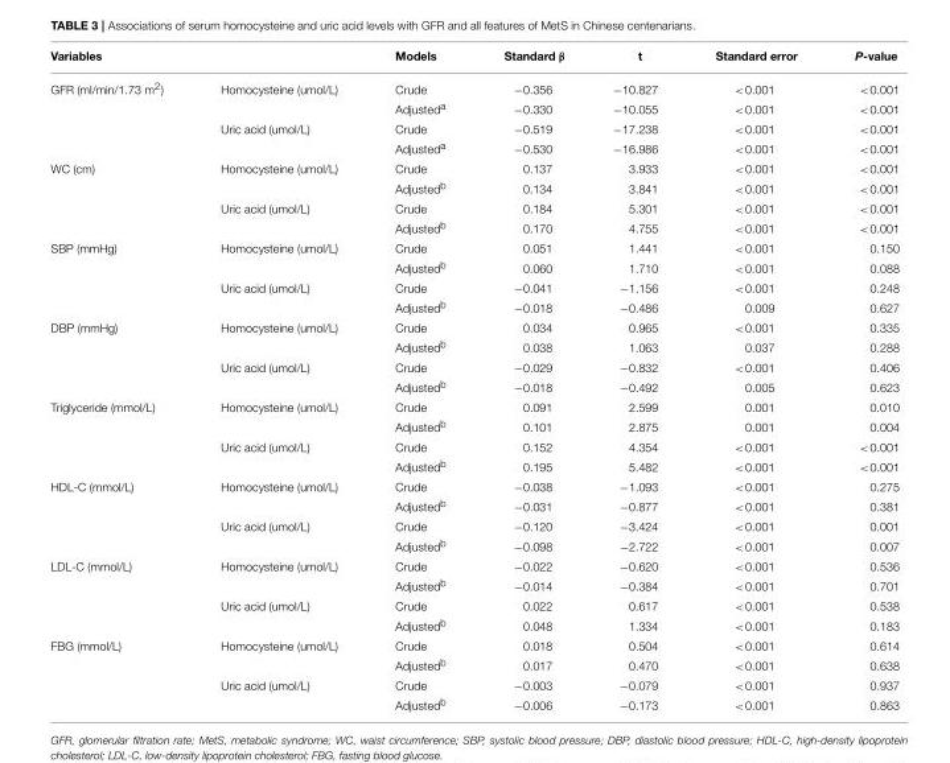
<table><thead><tr><td>Variables</td><td></td><td>Models</td><td>Standard β</td><td>t</td><td>Standard error</td><td>P-value</td></tr></thead><tbody><tr><td rowspan="4">GFR (ml/min/1.73 m<sup>2</sup>)</td><td>Homocysteine (umol/L)</td><td>Crude</td><td>−0.356</td><td>−10.827</td><td>&lt;0.001</td><td>&lt;0.001</td></tr><tr><td></td><td>Adjusted<sup>a</sup></td><td>−0.330</td><td>−10.055</td><td>&lt;0.001</td><td>&lt;0.001</td></tr><tr><td>Uric acid (umol/L)</td><td>Crude</td><td>−0.519</td><td>−17.238</td><td>&lt;0.001</td><td>&lt;0.001</td></tr><tr><td></td><td>Adjusted<sup>a</sup></td><td>−0.530</td><td>−16.986</td><td>&lt;0.001</td><td>&lt;0.001</td></tr><tr><td rowspan="4">WC (cm)</td><td>Homocysteine (umol/L)</td><td>Crude</td><td>0.137</td><td>3.933</td><td>&lt;0.001</td><td>&lt;0.001</td></tr><tr><td></td><td>Adjusted<sup>b</sup></td><td>0.134</td><td>3.841</td><td>&lt;0.001</td><td>&lt;0.001</td></tr><tr><td>Uric acid (umol/L)</td><td>Crude</td><td>0.184</td><td>5.301</td><td>&lt;0.001</td><td>&lt;0.001</td></tr><tr><td></td><td>Adjusted<sup>b</sup></td><td>0.170</td><td>4.755</td><td>&lt;0.001</td><td>&lt;0.001</td></tr><tr><td rowspan="4">SBP (mmHg)</td><td>Homocysteine (umol/L)</td><td>Crude</td><td>0.051</td><td>1.441</td><td>&lt;0.001</td><td>0.150</td></tr><tr><td></td><td>Adjusted<sup>b</sup></td><td>0.060</td><td>1.710</td><td>&lt;0.001</td><td>0.088</td></tr><tr><td>Uric acid (umol/L)</td><td>Crude</td><td>−0.041</td><td>−1.156</td><td>&lt;0.001</td><td>0.248</td></tr><tr><td></td><td>Adjusted<sup>b</sup></td><td>−0.018</td><td>−0.486</td><td>0.009</td><td>0.627</td></tr><tr><td rowspan="4">DBP (mmHg)</td><td>Homocysteine (umol/L)</td><td>Crude</td><td>0.034</td><td>0.965</td><td>&lt;0.001</td><td>0.335</td></tr><tr><td></td><td>Adjusted<sup>b</sup></td><td>0.038</td><td>1.063</td><td>0.037</td><td>0.288</td></tr><tr><td>Uric acid (umol/L)</td><td>Crude</td><td>−0.029</td><td>−0.832</td><td>&lt;0.001</td><td>0.406</td></tr><tr><td></td><td>Adjusted<sup>b</sup></td><td>−0.018</td><td>−0.492</td><td>0.005</td><td>0.623</td></tr><tr><td rowspan="4">Triglyceride (mmol/L)</td><td>Homocysteine (umol/L)</td><td>Crude</td><td>0.091</td><td>2.599</td><td>0.001</td><td>0.010</td></tr><tr><td></td><td>Adjusted<sup>b</sup></td><td>0.101</td><td>2.875</td><td>0.001</td><td>0.004</td></tr><tr><td>Uric acid (umol/L)</td><td>Crude</td><td>0.152</td><td>4.354</td><td>&lt;0.001</td><td>&lt;0.001</td></tr><tr><td></td><td>Adjusted<sup>b</sup></td><td>0.195</td><td>5.482</td><td>&lt;0.001</td><td>&lt;0.001</td></tr><tr><td rowspan="4">HDL-C (mmol/L)</td><td>Homocysteine (umol/L)</td><td>Crude</td><td>−0.038</td><td>−1.093</td><td>&lt;0.001</td><td>0.275</td></tr><tr><td></td><td>Adjusted<sup>b</sup></td><td>−0.031</td><td>−0.877</td><td>&lt;0.001</td><td>0.381</td></tr><tr><td>Uric acid (umol/L)</td><td>Crude</td><td>−0.120</td><td>−3.424</td><td>&lt;0.001</td><td>0.001</td></tr><tr><td></td><td>Adjusted<sup>b</sup></td><td>−0.098</td><td>−2.722</td><td>&lt;0.001</td><td>0.007</td></tr><tr><td rowspan="4">LDL-C (mmol/L)</td><td>Homocysteine (umol/L)</td><td>Crude</td><td>−0.022</td><td>−0.620</td><td>&lt;0.001</td><td>0.536</td></tr><tr><td></td><td>Adjusted<sup>b</sup></td><td>−0.014</td><td>−0.384</td><td>&lt;0.001</td><td>0.701</td></tr><tr><td>Uric acid (umol/L)</td><td>Crude</td><td>0.022</td><td>0.617</td><td>&lt;0.001</td><td>0.538</td></tr><tr><td></td><td>Adjusted<sup>b</sup></td><td>0.048</td><td>1.334</td><td>&lt;0.001</td><td>0.183</td></tr><tr><td rowspan="4">FBG (mmol/L)</td><td>Homocysteine (umol/L)</td><td>Crude</td><td>0.018</td><td>0.504</td><td>&lt;0.001</td><td>0.614</td></tr><tr><td></td><td>Adjusted<sup>b</sup></td><td>0.017</td><td>0.470</td><td>&lt;0.001</td><td>0.638</td></tr><tr><td>Uric acid (umol/L)</td><td>Crude</td><td>−0.003</td><td>−0.079</td><td>&lt;0.001</td><td>0.937</td></tr><tr><td></td><td>Adjusted<sup>b</sup></td><td>−0.006</td><td>−0.173</td><td>&lt;0.001</td><td>0.863</td></tr></tbody></table>